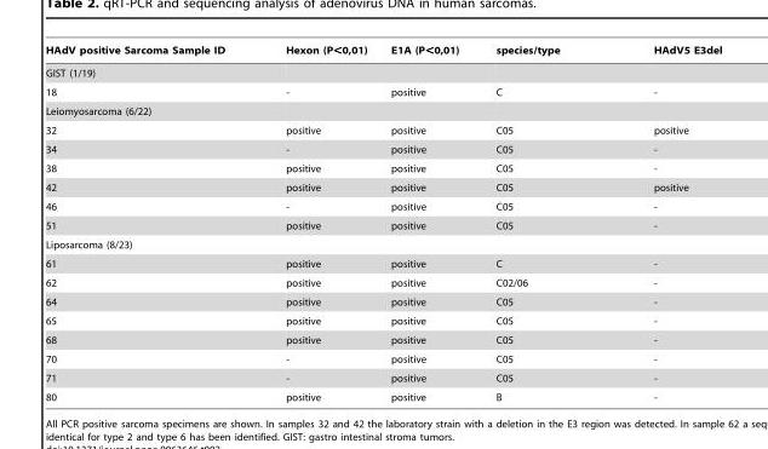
<table><thead><tr><td>HAdV positive Sarcoma Sample ID</td><td>Hexon (P&lt;0,01)</td><td>E1A (P&lt;0,01)</td><td>species/type</td><td>HAdV5 E3del</td></tr></thead><tbody><tr><td colspan="5">GIST (1/19)</td></tr><tr><td>18</td><td>-</td><td>positive</td><td>C</td><td>-</td></tr><tr><td colspan="5">Leiomyosarcoma (6/22)</td></tr><tr><td>32</td><td>positive</td><td>positive</td><td>C05</td><td>positive</td></tr><tr><td>34</td><td>-</td><td>positive</td><td>C05</td><td>-</td></tr><tr><td>38</td><td>positive</td><td>positive</td><td>C05</td><td>-</td></tr><tr><td>42</td><td>positive</td><td>positive</td><td>C05</td><td>positive</td></tr><tr><td>46</td><td>-</td><td>positive</td><td>C05</td><td>-</td></tr><tr><td>51</td><td>positive</td><td>positive</td><td>C05</td><td>-</td></tr><tr><td colspan="5">Liposarcoma (8/23)</td></tr><tr><td>61</td><td>positive</td><td>positive</td><td>C</td><td>-</td></tr><tr><td>62</td><td>positive</td><td>positive</td><td>C02/06</td><td>-</td></tr><tr><td>64</td><td>positive</td><td>positive</td><td>C05</td><td>-</td></tr><tr><td>65</td><td>positive</td><td>positive</td><td>C05</td><td>-</td></tr><tr><td>68</td><td>positive</td><td>positive</td><td>C05</td><td>-</td></tr><tr><td>70</td><td>-</td><td>positive</td><td>C05</td><td>-</td></tr><tr><td>71</td><td>-</td><td>positive</td><td>C05</td><td>-</td></tr><tr><td>80</td><td>positive</td><td>positive</td><td>B</td><td>-</td></tr></tbody></table>